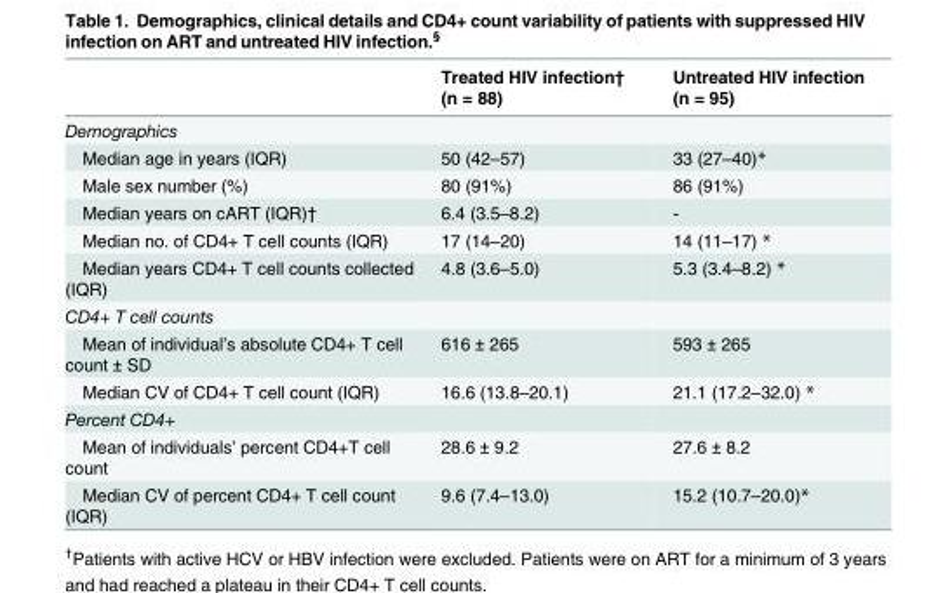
<table><thead><tr><td></td><td>Treated HIV infection† (n = 88)</td><td>Untreated HIV infection (n = 95)</td></tr></thead><tbody><tr><td colspan="3">Demographics</td></tr><tr><td>Median age in years (IQR)</td><td>50 (42–57)</td><td>33 (27–40)*</td></tr><tr><td>Male sex number (%)</td><td>80 (91%)</td><td>86 (91%)</td></tr><tr><td>Median years on cART (IQR)†</td><td>6.4 (3.5–8.2)</td><td>-</td></tr><tr><td>Median no. of CD4+ T cell counts (IQR)</td><td>17 (14–20)</td><td>14 (11–17) *</td></tr><tr><td>Median years CD4+ T cell counts collected (IQR)</td><td>4.8 (3.6–5.0)</td><td>5.3 (3.4–8.2) *</td></tr><tr><td colspan="3">CD4+ T cell counts</td></tr><tr><td>Mean of individual’s absolute CD4+ T cell count ± SD</td><td>616 ± 265</td><td>593 ± 265</td></tr><tr><td>Median CV of CD4+ T cell count (IQR)</td><td>16.6 (13.8–20.1)</td><td>21.1 (17.2–32.0) *</td></tr><tr><td colspan="3">Percent CD4+</td></tr><tr><td>Mean of individuals’ percent CD4+T cell count</td><td>28.6 ± 9.2</td><td>27.6 ± 8.2</td></tr><tr><td>Median CV of percent CD4+ T cell count (IQR)</td><td>9.6 (7.4–13.0)</td><td>15.2 (10.7–20.0)*</td></tr></tbody></table>